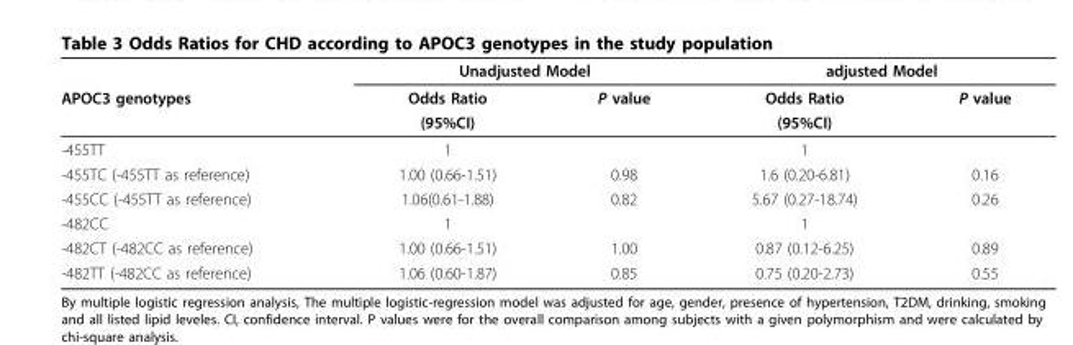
<table><thead><tr><td rowspan="3">APOC3 genotypes</td><td colspan="2">Unadjusted Model</td><td colspan="2">adjusted Model</td></tr><tr><td rowspan="2">Odds Ratio (95%CI)</td><td rowspan="2">P value</td><td rowspan="2">Odds Ratio (95%CI)</td><td rowspan="2">P value</td></tr><tr></tr></thead><tbody><tr><td>-455TT</td><td>1</td><td></td><td>1</td><td></td></tr><tr><td>-455TC (-455TT as reference)</td><td>1.00 (0.66-1.51)</td><td>0.98</td><td>1.6 (0.20-6.81)</td><td>0.16</td></tr><tr><td>-455CC (-455TT as reference)</td><td>1.06(0.61-1.88)</td><td>0.82</td><td>5.67 (0.27-18.74)</td><td>0.26</td></tr><tr><td>-482CC</td><td>1</td><td></td><td>1</td><td></td></tr><tr><td>-482CT (-482CC as reference)</td><td>1.00 (0.66-1.51)</td><td>1.00</td><td>0.87 (0.12-6.25)</td><td>0.89</td></tr><tr><td>-482TT (-482CC as reference)</td><td>1.06 (0.60-1.87)</td><td>0.85</td><td>0.75 (0.20-2.73)</td><td>0.55</td></tr></tbody></table>